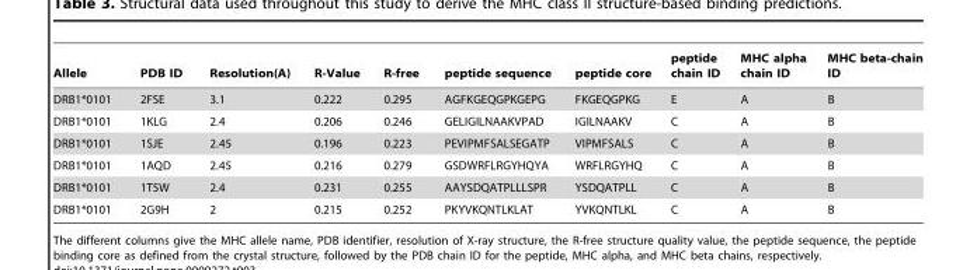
<table><thead><tr><td>Allele</td><td>PDB ID</td><td>Resolution(A)</td><td>R-Value</td><td>R-free</td><td>peptide sequence</td><td>peptide core</td><td>peptide chain ID</td><td>MHC alpha chain ID</td><td>MHC beta-chain ID</td></tr></thead><tbody><tr><td>DRB1*0101</td><td>2FSE</td><td>3.1</td><td>0.222</td><td>0.295</td><td>AGFKGEQGPKGEPG</td><td>FKGEQGPKG</td><td>E</td><td>A</td><td>B</td></tr><tr><td>DRB1*0101</td><td>1KLG</td><td>2.4</td><td>0.206</td><td>0.246</td><td>GELIGILNAAKVPAD</td><td>IGILNAAKV</td><td>C</td><td>A</td><td>B</td></tr><tr><td>DRB1*0101</td><td>1SJE</td><td>2.45</td><td>0.196</td><td>0.223</td><td>PEVIPMFSALSEGATP</td><td>VIPMFSALS</td><td>C</td><td>A</td><td>B</td></tr><tr><td>DRB1*0101</td><td>1AQD</td><td>2.45</td><td>0.216</td><td>0.279</td><td>GSDWRFLRGYHQYA</td><td>WRFLRGYHQ</td><td>C</td><td>A</td><td>B</td></tr><tr><td>DRB1*0101</td><td>1T5W</td><td>2.4</td><td>0.231</td><td>0.255</td><td>AAYSDQATPLLLSPR</td><td>YSDQATPLL</td><td>C</td><td>A</td><td>B</td></tr><tr><td>DRB1*0101</td><td>2G9H</td><td>2</td><td>0.215</td><td>0.252</td><td>PKYVKQNTLKLAT</td><td>YVKQNTLKL</td><td>C</td><td>A</td><td>B</td></tr></tbody></table>